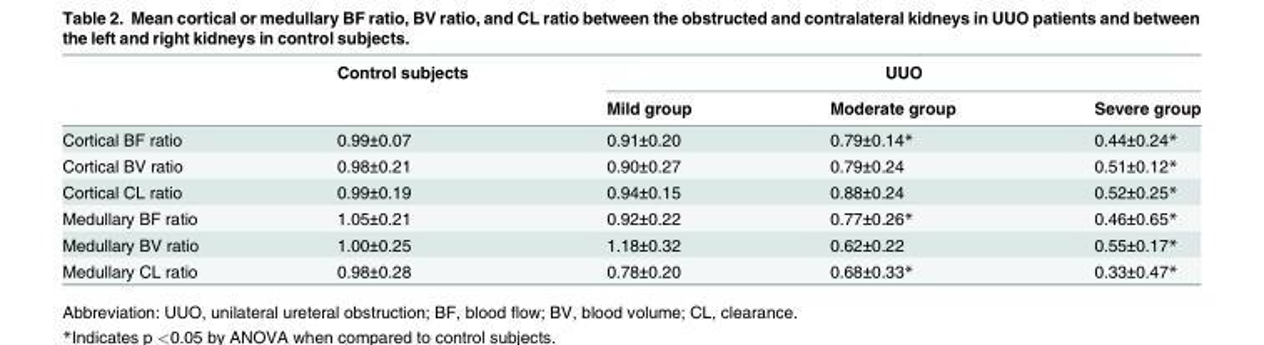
<table><thead><tr><td rowspan="2"></td><td rowspan="2">Control subjects</td><td colspan="3">UUO</td></tr><tr><td>Mild group</td><td>Moderate group</td><td>Severe group</td></tr></thead><tbody><tr><td>Cortical BF ratio</td><td>0.99±0.07</td><td>0.91±0.20</td><td>0.79±0.14*</td><td>0.44±0.24*</td></tr><tr><td>Cortical BV ratio</td><td>0.98±0.21</td><td>0.90±0.27</td><td>0.79±0.24</td><td>0.51±0.12*</td></tr><tr><td>Cortical CL ratio</td><td>0.99±0.19</td><td>0.94±0.15</td><td>0.88±0.24</td><td>0.52±0.25*</td></tr><tr><td>Medullary BF ratio</td><td>1.05±0.21</td><td>0.92±0.22</td><td>0.77±0.26*</td><td>0.46±0.65*</td></tr><tr><td>Medullary BV ratio</td><td>1.00±0.25</td><td>1.18±0.32</td><td>0.62±0.22</td><td>0.55±0.17*</td></tr><tr><td>Medullary CL ratio</td><td>0.98±0.28</td><td>0.78±0.20</td><td>0.68±0.33*</td><td>0.33±0.47*</td></tr></tbody></table>